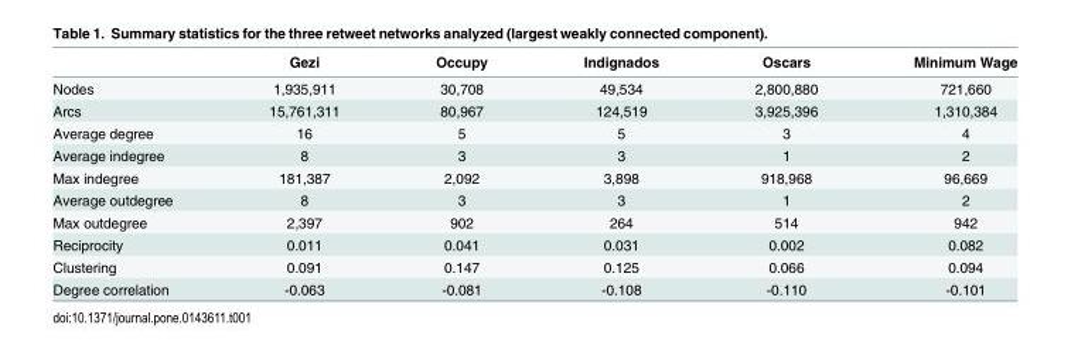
<table><thead><tr><td></td><td>Gezi</td><td>Occupy</td><td>Indignados</td><td>Oscars</td><td>Minimum Wage</td></tr></thead><tbody><tr><td>Nodes</td><td>1,935,911</td><td>30,708</td><td>49,534</td><td>2,800,880</td><td>721,660</td></tr><tr><td>Arcs</td><td>15,761,311</td><td>80,967</td><td>124,519</td><td>3,925,396</td><td>1,310,384</td></tr><tr><td>Average degree</td><td>16</td><td>5</td><td>5</td><td>3</td><td>4</td></tr><tr><td>Average indegree</td><td>8</td><td>3</td><td>3</td><td>1</td><td>2</td></tr><tr><td>Max indegree</td><td>181,387</td><td>2,092</td><td>3,898</td><td>918,968</td><td>96,669</td></tr><tr><td>Average outdegree</td><td>8</td><td>3</td><td>3</td><td>1</td><td>2</td></tr><tr><td>Max outdegree</td><td>2,397</td><td>902</td><td>264</td><td>514</td><td>942</td></tr><tr><td>Reciprocity</td><td>0.011</td><td>0.041</td><td>0.031</td><td>0.002</td><td>0.082</td></tr><tr><td>Clustering</td><td>0.091</td><td>0.147</td><td>0.125</td><td>0.066</td><td>0.094</td></tr><tr><td>Degree correlation</td><td>-0.063</td><td>-0.081</td><td>-0.108</td><td>-0.110</td><td>-0.101</td></tr></tbody></table>